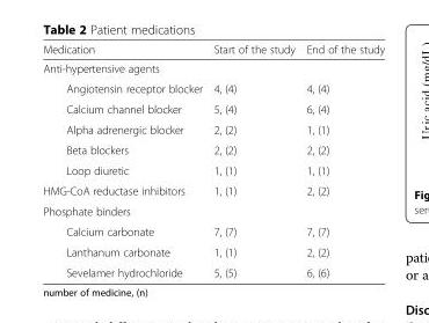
<table><thead><tr><td>Medication</td><td>Start of the study</td><td>End of the study</td></tr></thead><tbody><tr><td colspan="3">Anti-hypertensive agents</td></tr><tr><td>Angiotensin receptor blocker</td><td>4, (4)</td><td>4, (4)</td></tr><tr><td>Calcium channel blocker</td><td>5, (4)</td><td>6, (4)</td></tr><tr><td>Alpha adrenergic blocker</td><td>2, (2)</td><td>1, (1)</td></tr><tr><td>Beta blockers</td><td>2, (2)</td><td>2, (2)</td></tr><tr><td>Loop diuretic</td><td>1, (1)</td><td>1, (1)</td></tr><tr><td>HMG-CoA reductase inhibitors</td><td>1, (1)</td><td>2, (2)</td></tr><tr><td colspan="3">Phosphate binders</td></tr><tr><td>Calcium carbonate</td><td>7, (7)</td><td>7, (7)</td></tr><tr><td>Lanthanum carbonate</td><td>1, (1)</td><td>2, (2)</td></tr><tr><td>Sevelamer hydrochloride</td><td>5, (5)</td><td>6, (6)</td></tr></tbody></table>